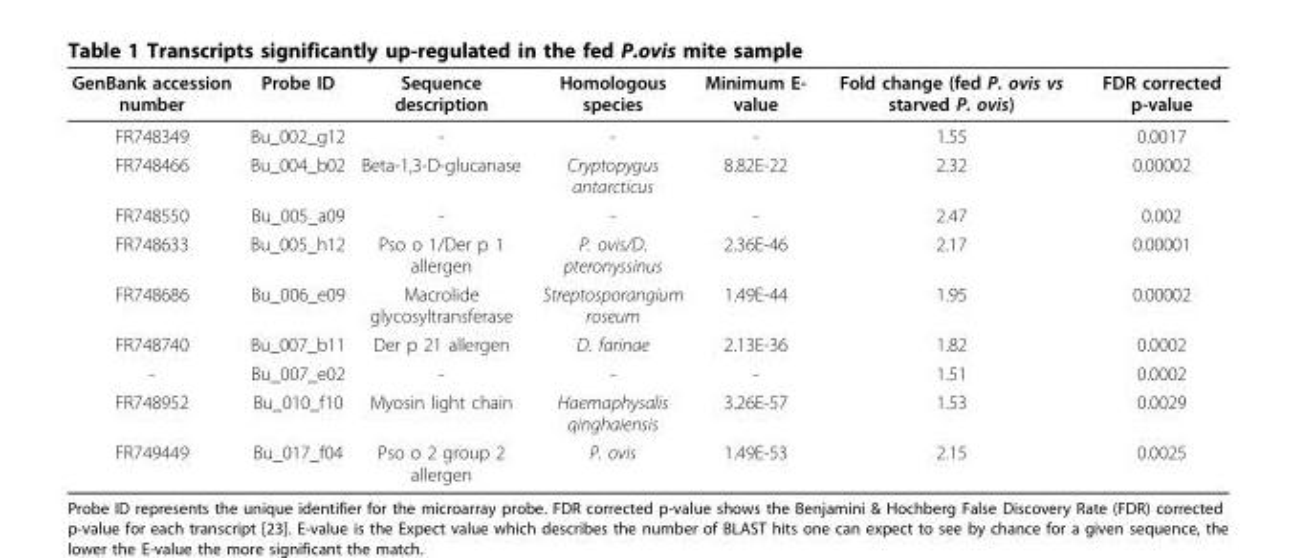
<table><thead><tr><td>GenBank accession number</td><td>Probe ID</td><td>Sequence description</td><td>Homologous species</td><td>Minimum E- value</td><td>Fold change (fed P. ovis vs starved P. ovis)</td><td>FDR corrected p-value</td></tr></thead><tbody><tr><td>FR748349</td><td>Bu_002_g12</td><td>-</td><td>-</td><td>-</td><td>1.55</td><td>0.0017</td></tr><tr><td>FR748466</td><td>Bu_004_b02</td><td>Beta-1,3-D-glucanase</td><td>Cryptopygus antarcticus</td><td>8.82E-22</td><td>2.32</td><td>0.00002</td></tr><tr><td>FR748550</td><td>Bu_005_a09</td><td>-</td><td>-</td><td>-</td><td>2.47</td><td>0.002</td></tr><tr><td>FR748633</td><td>Bu_005_h12</td><td>Pso o 1/Der p 1 allergen</td><td>P. ovis/D. pteronyssinus</td><td>2.36E-46</td><td>2.17</td><td>0.00001</td></tr><tr><td>FR748686</td><td>Bu_006_e09</td><td>Macrolide glycosyltransferase</td><td>Streptosporangium roseum</td><td>1.49E-44</td><td>1.95</td><td>0.00002</td></tr><tr><td>FR748740</td><td>Bu_007_b11</td><td>Der p 21 allergen</td><td>D. farinae</td><td>2.13E-36</td><td>1.82</td><td>0.0002</td></tr><tr><td>-</td><td>Bu_007_e02</td><td>-</td><td>-</td><td>-</td><td>1.51</td><td>0.0002</td></tr><tr><td>FR748952</td><td>Bu_010_f10</td><td>Myosin light chain</td><td>Haemaphysalis qinghaiensis</td><td>3.26E-57</td><td>1.53</td><td>0.0029</td></tr><tr><td>FR749449</td><td>Bu_017_f04</td><td>Pso o 2 group 2 allergen</td><td>P. ovis</td><td>1.49E-53</td><td>2.15</td><td>0.0025</td></tr></tbody></table>